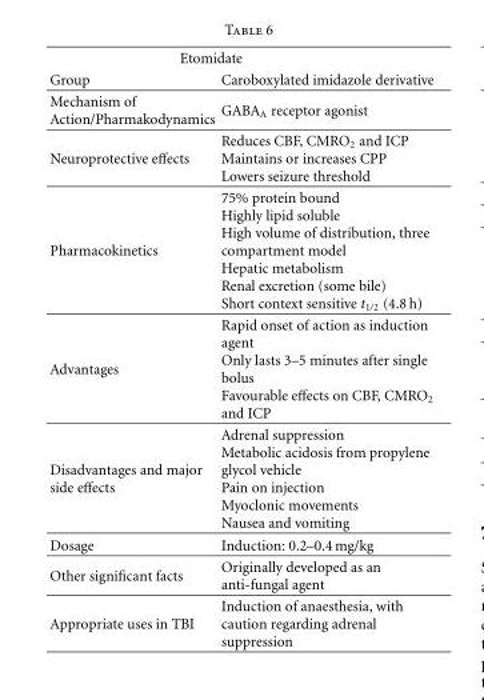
<table><thead><tr><td colspan="2">Etomidate</td></tr><tr><td>Group</td><td>Caroboxylated imidazole derivative</td></tr></thead><tbody><tr><td>Mechanism of Action/Pharmakodynamics</td><td>GABA<sub>A</sub> receptor agonist</td></tr><tr><td>Neuroprotective effects</td><td>Reduces CBF, CMRO<sub>2</sub> and ICP Maintains or increases CPP Lowers seizure threshold</td></tr><tr><td>Pharmacokinetics</td><td>75% protein bound Highly lipid soluble High volume of distribution, three compartment model Hepatic metabolism Renal excretion (some bile) Short context sensitive t<sub>1/2</sub> (4.8 h)</td></tr><tr><td>Advantages</td><td>Rapid onset of action as induction agent Only lasts 3–5 minutes after single bolus Favourable effects on CBF, CMRO<sub>2</sub> and ICP</td></tr><tr><td>Disadvantages and major side effects</td><td>Adrenal suppression Metabolic acidosis from propylene glycol vehicle Pain on injection Myoclonic movements Nausea and vomiting</td></tr><tr><td>Dosage</td><td>Induction: 0.2–0.4 mg/kg</td></tr><tr><td>Other significant facts</td><td>Originally developed as an anti-fungal agent</td></tr><tr><td>Appropriate uses in TBI</td><td>Induction of anaesthesia, with caution regarding adrenal suppression</td></tr></tbody></table>